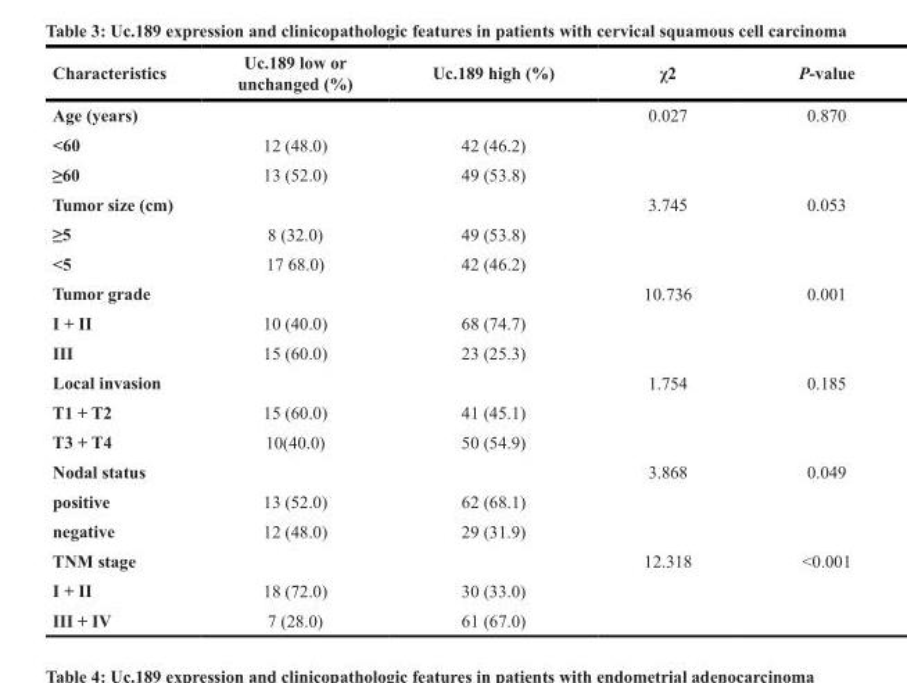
<table><thead><tr><td>Characteristics</td><td>Uc.189 low or unchanged (%)</td><td>Uc.189 high (%)</td><td>χ2</td><td>P-value</td></tr></thead><tbody><tr><td>Age (years)</td><td></td><td></td><td>0.027</td><td>0.870</td></tr><tr><td>&lt;60</td><td>12 (48.0)</td><td>42 (46.2)</td><td></td><td></td></tr><tr><td>≥60</td><td>13 (52.0)</td><td>49 (53.8)</td><td></td><td></td></tr><tr><td>Tumor size (cm)</td><td></td><td></td><td>3.745</td><td>0.053</td></tr><tr><td>≥5</td><td>8 (32.0)</td><td>49 (53.8)</td><td></td><td></td></tr><tr><td>&lt;5</td><td>17 68.0)</td><td>42 (46.2)</td><td></td><td></td></tr><tr><td>Tumor grade</td><td></td><td></td><td>10.736</td><td>0.001</td></tr><tr><td>I + II</td><td>10 (40.0)</td><td>68 (74.7)</td><td></td><td></td></tr><tr><td>III</td><td>15 (60.0)</td><td>23 (25.3)</td><td></td><td></td></tr><tr><td>Local invasion</td><td></td><td></td><td>1.754</td><td>0.185</td></tr><tr><td>T1 + T2</td><td>15 (60.0)</td><td>41 (45.1)</td><td></td><td></td></tr><tr><td>T3 + T4</td><td>10(40.0)</td><td>50 (54.9)</td><td></td><td></td></tr><tr><td>Nodal status</td><td></td><td></td><td>3.868</td><td>0.049</td></tr><tr><td>positive</td><td>13 (52.0)</td><td>62 (68.1)</td><td></td><td></td></tr><tr><td>negative</td><td>12 (48.0)</td><td>29 (31.9)</td><td></td><td></td></tr><tr><td>TNM stage</td><td></td><td></td><td>12.318</td><td>&lt;0.001</td></tr><tr><td>I + II</td><td>18 (72.0)</td><td>30 (33.0)</td><td></td><td></td></tr><tr><td>III + IV</td><td>7 (28.0)</td><td>61 (67.0)</td><td></td><td></td></tr></tbody></table>